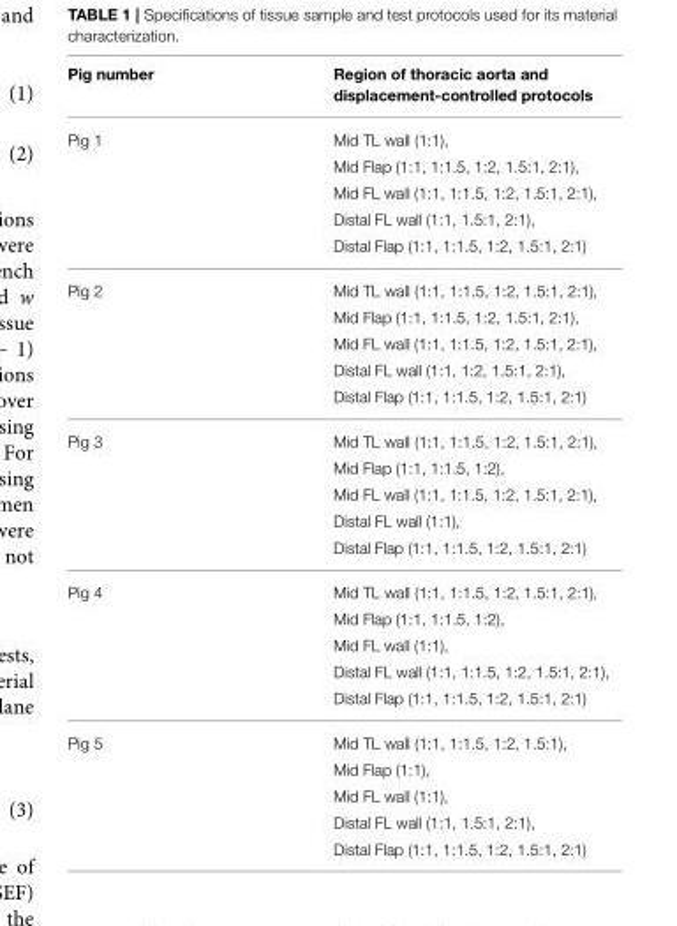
<table><thead><tr><td>Pig number</td><td>Region of thoracic aorta and displacement-controlled protocols</td></tr></thead><tbody><tr><td rowspan="5">Pig 1</td><td>Mid TL wall (1:1),</td></tr><tr><td>Mid Flap (1:1, 1:1.5, 1:2, 1.5:1, 2:1),</td></tr><tr><td>Mid FL wall (1:1, 1:1.5, 1:2, 1.5:1, 2:1),</td></tr><tr><td>Distal FL wall (1:1, 1.5:1, 2:1),</td></tr><tr><td>Distal Flap (1:1, 1:1.5, 1:2, 1.5:1, 2:1)</td></tr><tr><td rowspan="5">Pig 2</td><td>Mid TL wall (1:1, 1:1.5, 1:2, 1.5:1, 2:1),</td></tr><tr><td>Mid Flap (1:1, 1:1.5, 1:2, 1.5:1, 2:1),</td></tr><tr><td>Mid FL wall (1:1, 1:1.5, 1:2, 1.5:1, 2:1),</td></tr><tr><td>Distal FL wall (1:1, 1:2, 1.5:1, 2:1),</td></tr><tr><td>Distal Flap (1:1, 1:1.5, 1:2, 1.5:1, 2:1)</td></tr><tr><td rowspan="5">Pig 3</td><td>Mid TL wall (1:1, 1:1.5, 1:2, 1.5:1, 2:1),</td></tr><tr><td>Mid Flap (1:1, 1:1.5, 1:2),</td></tr><tr><td>Mid FL wall (1:1, 1:1.5, 1:2, 1.5:1, 2:1),</td></tr><tr><td>Distal FL wall (1:1),</td></tr><tr><td>Distal Flap (1:1, 1:1.5, 1:2, 1.5:1, 2:1)</td></tr><tr><td rowspan="5">Pig 4</td><td>Mid TL wall (1:1, 1:1.5, 1:2, 1.5:1, 2:1),</td></tr><tr><td>Mid Flap (1:1, 1:1.5, 1:2),</td></tr><tr><td>Mid FL wall (1:1),</td></tr><tr><td>Distal FL wall (1:1, 1:1.5, 1:2, 1.5:1, 2:1),</td></tr><tr><td>Distal Flap (1:1, 1:1.5, 1:2, 1.5:1, 2:1)</td></tr><tr><td rowspan="5">Pig 5</td><td>Mid TL wall (1:1, 1:1.5, 1:2, 1.5:1),</td></tr><tr><td>Mid Flap (1:1),</td></tr><tr><td>Mid FL wall (1:1),</td></tr><tr><td>Distal FL wall (1:1, 1.5:1, 2:1),</td></tr><tr><td>Distal Flap (1:1, 1:1.5, 1:2, 1.5:1, 2:1)</td></tr></tbody></table>